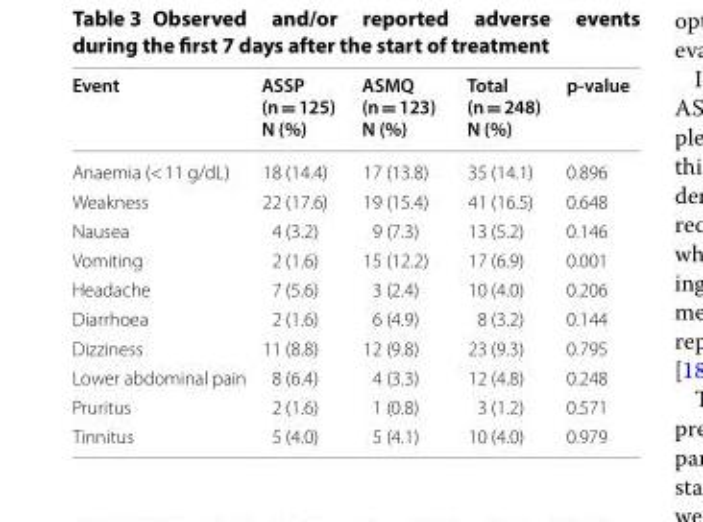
<table><thead><tr><td>Event</td><td>ASSP (n = 125) N (%)</td><td>ASMQ (n = 123) N (%)</td><td>Total (n = 248) N (%)</td><td>p-value</td></tr></thead><tbody><tr><td>Anaemia (&lt; 11 g/dL)</td><td>18 (14.4)</td><td>17 (13.8)</td><td>35 (14.1)</td><td>0.896</td></tr><tr><td>Weakness</td><td>22 (17.6)</td><td>19 (15.4)</td><td>41 (16.5)</td><td>0.648</td></tr><tr><td>Nausea</td><td>4 (3.2)</td><td>9 (7.3)</td><td>13 (5.2)</td><td>0.146</td></tr><tr><td>Vomiting</td><td>2 (1.6)</td><td>15 (12.2)</td><td>17 (6.9)</td><td>0.001</td></tr><tr><td>Headache</td><td>7 (5.6)</td><td>3 (2.4)</td><td>10 (4.0)</td><td>0.206</td></tr><tr><td>Diarrhoea</td><td>2 (1.6)</td><td>6 (4.9)</td><td>8 (3.2)</td><td>0.144</td></tr><tr><td>Dizziness</td><td>11 (8.8)</td><td>12 (9.8)</td><td>23 (9.3)</td><td>0.795</td></tr><tr><td>Lower abdominal pain</td><td>8 (6.4)</td><td>4 (3.3)</td><td>12 (4.8)</td><td>0.248</td></tr><tr><td>Pruritus</td><td>2 (1.6)</td><td>1 (0.8)</td><td>3 (1.2)</td><td>0.571</td></tr><tr><td>Tinnitus</td><td>5 (4.0)</td><td>5 (4.1)</td><td>10 (4.0)</td><td>0.979</td></tr></tbody></table>